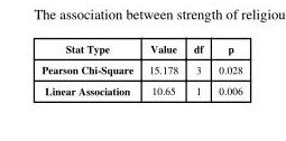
<table><thead><tr><td>Stat Type</td><td>Value</td><td>df</td><td>p</td></tr></thead><tbody><tr><td>Pearson Chi-Square</td><td>15.178</td><td>3</td><td>0.028</td></tr><tr><td>Linear Association</td><td>10.65</td><td>1</td><td>0.006</td></tr></tbody></table>